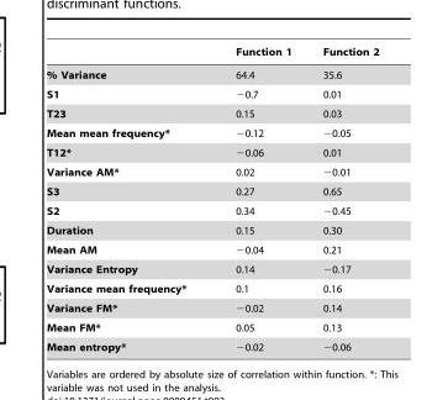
<table><thead><tr><td></td><td>Function 1</td><td>Function 2</td></tr></thead><tbody><tr><td>% Variance</td><td>64.4</td><td>35.6</td></tr><tr><td>S1</td><td>−0.7</td><td>0.01</td></tr><tr><td>T23</td><td>0.15</td><td>0.03</td></tr><tr><td>Mean mean frequency*</td><td>−0.12</td><td>−0.05</td></tr><tr><td>T12*</td><td>−0.06</td><td>0.01</td></tr><tr><td>Variance AM*</td><td>0.02</td><td>−0.01</td></tr><tr><td>S3</td><td>0.27</td><td>0.65</td></tr><tr><td>S2</td><td>0.34</td><td>−0.45</td></tr><tr><td>Duration</td><td>0.15</td><td>0.30</td></tr><tr><td>Mean AM</td><td>−0.04</td><td>0.21</td></tr><tr><td>Variance Entropy</td><td>0.14</td><td>−0.17</td></tr><tr><td>Variance mean frequency*</td><td>0.1</td><td>0.16</td></tr><tr><td>Variance FM*</td><td>−0.02</td><td>0.14</td></tr><tr><td>Mean FM*</td><td>0.05</td><td>0.13</td></tr><tr><td>Mean entropy*</td><td>−0.02</td><td>−0.06</td></tr></tbody></table>